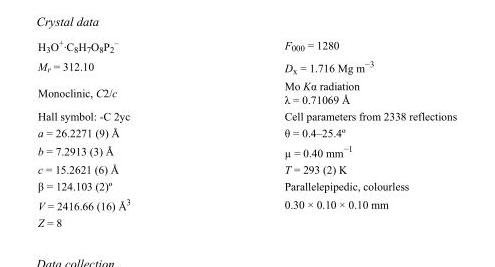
<table><tbody><tr><td>H<sub>3</sub>O<sup>+</sup>·C<sub>8</sub>H<sub>7</sub>O<sub>8</sub>P<sub>2</sub> <sup>–</sup></td><td>F000 = 1280</td></tr><tr><td>M<sub>r</sub> = 312.10</td><td>D<sub>x</sub> = 1.716 Mg m<sup>−3</sup></td></tr><tr><td>Monoclinic, C2/c</td><td>Mo Kα radiation λ = 0.71069 Å</td></tr><tr><td>Hall symbol: -C 2yc</td><td>Cell parameters from 2338 reflections</td></tr><tr><td>a = 26.2271 (9) Å</td><td>θ = 0.4–25.4º</td></tr><tr><td>b = 7.2913 (3) Å</td><td>µ = 0.40 mm<sup>−1</sup></td></tr><tr><td>c = 15.2621 (6) Å</td><td>T = 293 (2) K</td></tr><tr><td>β = 124.103 (2)º</td><td>Parallelepipedic, colourless</td></tr><tr><td>V = 2416.66 (16) Å<sup>3</sup></td><td>0.30 × 0.10 × 0.10 mm</td></tr><tr><td>Z = 8</td><td></td></tr></tbody></table>